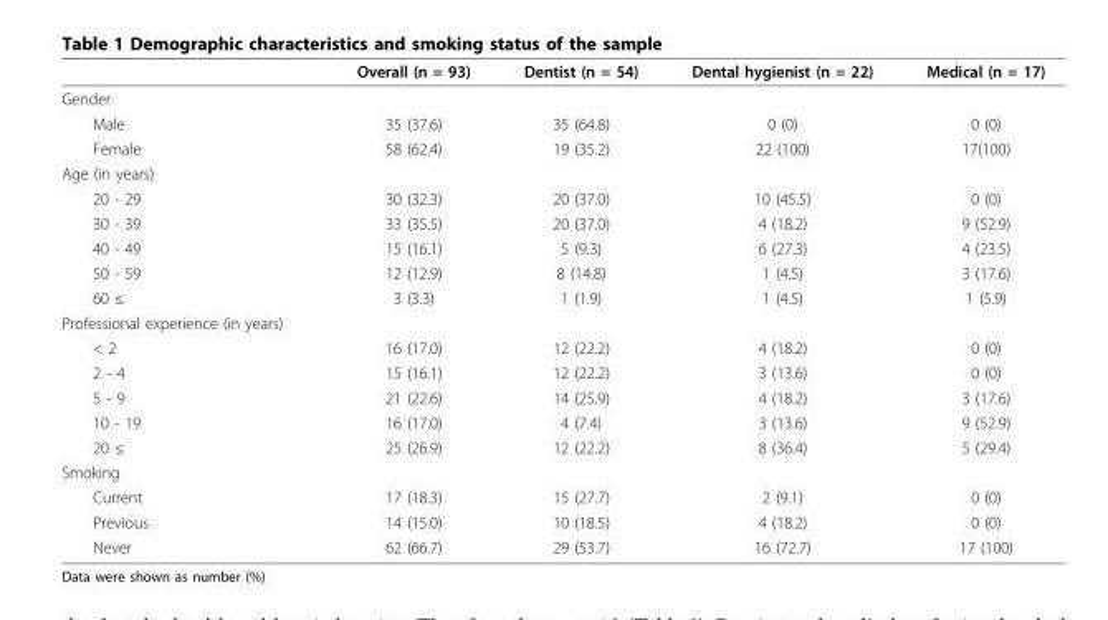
<table><thead><tr><td></td><td>Overall (n = 93)</td><td>Dentist (n = 54)</td><td>Dental hygienist (n = 22)</td><td>Medical (n = 17)</td></tr></thead><tbody><tr><td colspan="5">Gender</td></tr><tr><td>Male</td><td>35 (37.6)</td><td>35 (64.8)</td><td>0 (0)</td><td>0 (0)</td></tr><tr><td>Female</td><td>58 (62.4)</td><td>19 (35.2)</td><td>22 (100)</td><td>17(100)</td></tr><tr><td colspan="5">Age (in years)</td></tr><tr><td>20 - 29</td><td>30 (32.3)</td><td>20 (37.0)</td><td>10 (45.5)</td><td>0 (0)</td></tr><tr><td>30 - 39</td><td>33 (35.5)</td><td>20 (37.0)</td><td>4 (18.2)</td><td>9 (52.9)</td></tr><tr><td>40 - 49</td><td>15 (16.1)</td><td>5 (9.3)</td><td>6 (27.3)</td><td>4 (23.5)</td></tr><tr><td>50 - 59</td><td>12 (12.9)</td><td>8 (14.8)</td><td>1 (4.5)</td><td>3 (17.6)</td></tr><tr><td>60 ≤</td><td>3 (3.3)</td><td>1 (1.9)</td><td>1 (4.5)</td><td>1 (5.9)</td></tr><tr><td colspan="5">Professional experience (in years)</td></tr><tr><td>&lt; 2</td><td>16 (17.0)</td><td>12 (22.2)</td><td>4 (18.2)</td><td>0 (0)</td></tr><tr><td>2 - 4</td><td>15 (16.1)</td><td>12 (22.2)</td><td>3 (13.6)</td><td>0 (0)</td></tr><tr><td>5 - 9</td><td>21 (22.6)</td><td>14 (25.9)</td><td>4 (18.2)</td><td>3 (17.6)</td></tr><tr><td>10 - 19</td><td>16 (17.0)</td><td>4 (7.4)</td><td>3 (13.6)</td><td>9 (52.9)</td></tr><tr><td>20 ≤</td><td>25 (26.9)</td><td>12 (22.2)</td><td>8 (36.4)</td><td>5 (29.4)</td></tr><tr><td colspan="5">Smoking</td></tr><tr><td>Current</td><td>17 (18.3)</td><td>15 (27.7)</td><td>2 (9.1)</td><td>0 (0)</td></tr><tr><td>Previous</td><td>14 (15.0)</td><td>10 (18.5)</td><td>4 (18.2)</td><td>0 (0)</td></tr><tr><td>Never</td><td>62 (66.7)</td><td>29 (53.7)</td><td>16 (72.7)</td><td>17 (100)</td></tr></tbody></table>